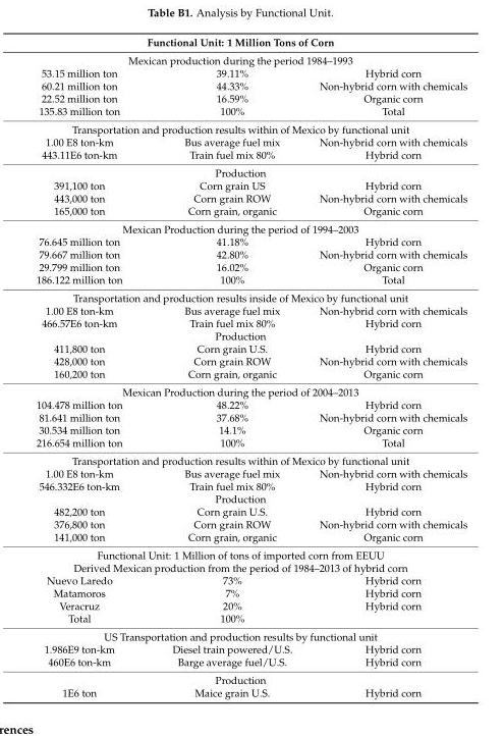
<table><thead><tr><td rowspan="2" colspan="3">Functional Unit: 1 Million Tons of Corn Mexican production during the period 1984–1993</td></tr><tr></tr><tr><td>53.15 million ton</td><td>39.11%</td><td>Hybrid corn</td></tr></thead><tbody><tr><td>60.21 million ton</td><td>44.33%</td><td>Non-hybrid corn with chemicals</td></tr><tr><td>22.52 million ton</td><td>16.59%</td><td>Organic corn</td></tr><tr><td>135.83 million ton</td><td>100%</td><td>Total</td></tr><tr><td colspan="3">Transportation and production results within of Mexico by functional unit</td></tr><tr><td>1.00 E8 ton-km</td><td>Bus average fuel mix</td><td>Non-hybrid corn with chemicals</td></tr><tr><td>443.11E6 ton-km</td><td>Train fuel mix 80%</td><td>Hybrid corn</td></tr><tr><td colspan="3">Production</td></tr><tr><td>391,100 ton</td><td>Corn grain US</td><td>Hybrid corn</td></tr><tr><td>443,000 ton</td><td>Corn grain ROW</td><td>Non-hybrid corn with chemicals</td></tr><tr><td>165,000 ton</td><td>Corn grain, organic</td><td>Organic corn</td></tr><tr><td colspan="3">Mexican Production during the period of 1994–2003</td></tr><tr><td>76.645 million ton</td><td>41.18%</td><td>Hybrid corn</td></tr><tr><td>79.667 million ton</td><td>42.80%</td><td>Non-hybrid corn with chemicals</td></tr><tr><td>29.799 million ton</td><td>16.02%</td><td>Organic corn</td></tr><tr><td>186.122 million ton</td><td>100%</td><td>Total</td></tr><tr><td colspan="3">Transportation and production results inside of Mexico by functional unit</td></tr><tr><td>1.00 E8 ton-km</td><td>Bus average fuel mix</td><td>Non-hybrid corn with chemicals</td></tr><tr><td>466.57E6 ton-km</td><td>Train fuel mix 80%</td><td>Hybrid corn</td></tr><tr><td colspan="3">Production</td></tr><tr><td>411,800 ton</td><td>Corn grain U.S.</td><td>Hybrid corn</td></tr><tr><td>428,000 ton</td><td>Corn grain ROW</td><td>Non-hybrid corn with chemicals</td></tr><tr><td>160,200 ton</td><td>Corn grain, organic</td><td>Organic corn</td></tr><tr><td colspan="3">Mexican Production during the period of 2004–2013</td></tr><tr><td>104.478 million ton</td><td>48.22%</td><td>Hybrid corn</td></tr><tr><td>81.641 million ton</td><td>37.68%</td><td>Non-hybrid corn with chemicals</td></tr><tr><td>30.534 million ton</td><td>14.1%</td><td>Organic corn</td></tr><tr><td>216.654 million ton</td><td>100%</td><td>Total</td></tr><tr><td colspan="3">Transportation and production results within of Mexico by functional unit</td></tr><tr><td>1.00 E8 ton-km</td><td>Bus average fuel mix</td><td>Non-hybrid corn with chemicals</td></tr><tr><td>546.332E6 ton-km</td><td>Train fuel mix 80%</td><td>Hybrid corn</td></tr><tr><td colspan="3">Production</td></tr><tr><td>482,200 ton</td><td>Corn grain U.S.</td><td>Hybrid corn</td></tr><tr><td>376,800 ton</td><td>Corn grain ROW</td><td>Non-hybrid corn with chemicals</td></tr><tr><td>141,000 ton</td><td>Corn grain, organic</td><td>Organic corn</td></tr><tr><td colspan="3">Functional Unit: 1 Million of tons of imported corn from EEUU</td></tr><tr><td colspan="3">Derived Mexican production from the period of 1984–2013 of hybrid corn</td></tr><tr><td>Nuevo Laredo</td><td>73%</td><td>Hybrid corn</td></tr><tr><td>Matamoros</td><td>7%</td><td>Hybrid corn</td></tr><tr><td>Veracruz</td><td>20%</td><td>Hybrid corn</td></tr><tr><td>Total</td><td>100%</td><td></td></tr><tr><td colspan="3">US Transportation and production results by functional unit</td></tr><tr><td>1.986E9 ton-km</td><td>Diesel train powered/U.S.</td><td>Hybrid corn</td></tr><tr><td>460E6 ton-km</td><td>Barge average fuel/U.S.</td><td>Hybrid corn</td></tr><tr><td colspan="3">Production</td></tr><tr><td>1E6 ton</td><td>Maice grain U.S.</td><td>Hybrid corn</td></tr></tbody></table>